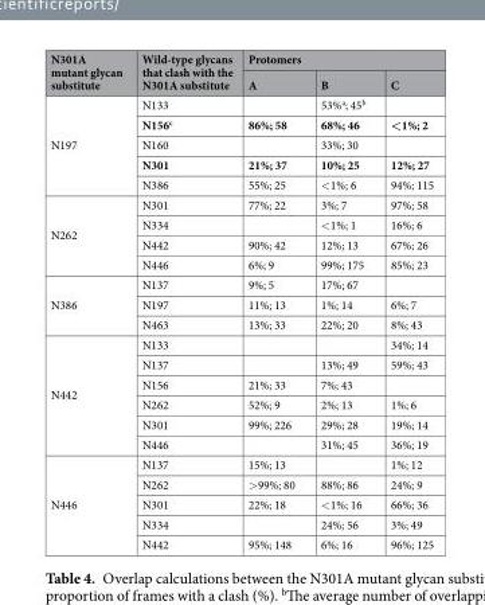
<table><thead><tr><td rowspan="2">N301A mutant glycan substitute</td><td rowspan="2">Wild-type glycans that clash with the N301A substitute</td><td colspan="3">Protomers</td></tr><tr><td>A</td><td>B</td><td>C</td></tr></thead><tbody><tr><td rowspan="5">N197</td><td>N133</td><td></td><td>53%<sup>a</sup>; 45<sup>b</sup></td><td></td></tr><tr><td>N156<sup>c</sup></td><td>86%; 58</td><td>68%; 46</td><td>&lt;1%; 2</td></tr><tr><td>N160</td><td></td><td>33%; 30</td><td></td></tr><tr><td>N301</td><td>21%; 37</td><td>10%; 25</td><td>12%; 27</td></tr><tr><td>N386</td><td>55%; 25</td><td>&lt;1%; 6</td><td>94%; 115</td></tr><tr><td rowspan="4">N262</td><td>N301</td><td>77%; 22</td><td>3%; 7</td><td>97%; 58</td></tr><tr><td>N334</td><td></td><td>&lt;1%; 1</td><td>16%; 6</td></tr><tr><td>N442</td><td>90%; 42</td><td>12%; 13</td><td>67%; 26</td></tr><tr><td>N446</td><td>6%; 9</td><td>99%; 175</td><td>85%; 23</td></tr><tr><td rowspan="3">N386</td><td>N137</td><td>9%; 5</td><td>17%; 67</td><td></td></tr><tr><td>N197</td><td>11%; 13</td><td>1%; 14</td><td>6%; 7</td></tr><tr><td>N463</td><td>13%; 33</td><td>22%; 20</td><td>8%; 43</td></tr><tr><td rowspan="6">N442</td><td>N133</td><td></td><td></td><td>34%; 14</td></tr><tr><td>N137</td><td></td><td>13%; 49</td><td>59%; 43</td></tr><tr><td>N156</td><td>21%; 33</td><td>7%; 43</td><td></td></tr><tr><td>N262</td><td>52%; 9</td><td>2%; 13</td><td>1%; 6</td></tr><tr><td>N301</td><td>99%; 226</td><td>29%; 28</td><td>19%; 14</td></tr><tr><td>N446</td><td></td><td>31%; 45</td><td>36%; 19</td></tr><tr><td rowspan="5">N446</td><td>N137</td><td>15%; 13</td><td></td><td>1%; 12</td></tr><tr><td>N262</td><td>&gt;99%; 80</td><td>88%; 86</td><td>24%; 9</td></tr><tr><td>N301</td><td>22%; 18</td><td>&lt;1%; 16</td><td>66%; 36</td></tr><tr><td>N334</td><td></td><td>24%; 56</td><td>3%; 49</td></tr><tr><td>N442</td><td>95%; 148</td><td>6%; 16</td><td>96%; 125</td></tr></tbody></table>